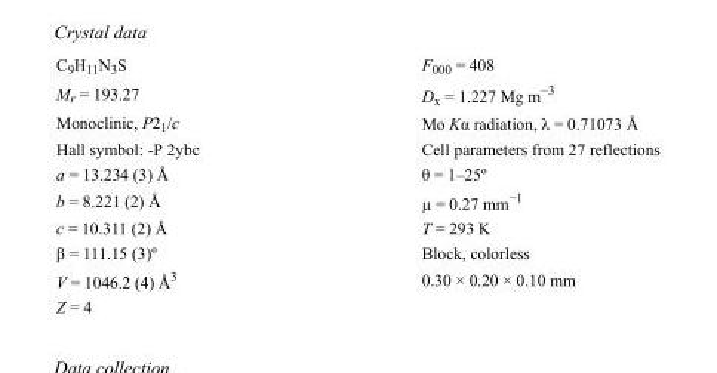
<table><tbody><tr><td>C<sub>9</sub>H<sub>11</sub>N<sub>3</sub>S</td><td>F000 = 408</td></tr><tr><td>M<sub>r</sub> = 193.27</td><td>D<sub>x</sub> = 1.227 Mg m<sup>−3</sup></td></tr><tr><td>Monoclinic, P2<sub>1</sub>/c</td><td>Mo Kα radiation, λ = 0.71073 Å</td></tr><tr><td>Hall symbol: -P 2ybc</td><td>Cell parameters from 27 reflections</td></tr><tr><td>a = 13.234 (3) Å</td><td>θ = 1–25º</td></tr><tr><td>b = 8.221 (2) Å</td><td>µ = 0.27 mm<sup>−1</sup></td></tr><tr><td>c = 10.311 (2) Å</td><td>T = 293 K</td></tr><tr><td>β = 111.15 (3)º</td><td>Block, colorless</td></tr><tr><td>V = 1046.2 (4) Å<sup>3</sup></td><td>0.30 × 0.20 × 0.10 mm</td></tr><tr><td>Z = 4</td><td></td></tr></tbody></table>